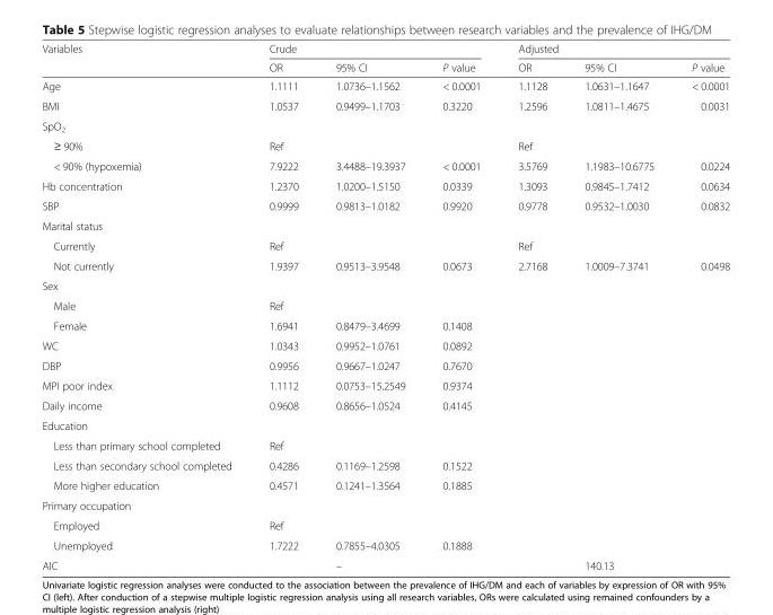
<table><thead><tr><td rowspan="2">Variables</td><td colspan="3">Crude</td><td colspan="3">Adjusted</td></tr><tr><td>OR</td><td>95% CI</td><td>P value</td><td>OR</td><td>95% CI</td><td>P value</td></tr></thead><tbody><tr><td>Age</td><td>1.1111</td><td>1.0736–1.1562</td><td>&lt; 0.0001</td><td>1.1128</td><td>1.0631–1.1647</td><td>&lt; 0.0001</td></tr><tr><td>BMI</td><td>1.0537</td><td>0.9499–1.1703</td><td>0.3220</td><td>1.2596</td><td>1.0811–1.4675</td><td>0.0031</td></tr><tr><td colspan="7">SpO<sub>2</sub></td></tr><tr><td>≥ 90%</td><td>Ref</td><td></td><td></td><td>Ref</td><td></td><td></td></tr><tr><td>&lt; 90% (hypoxemia)</td><td>7.9222</td><td>3.4488–19.3937</td><td>&lt; 0.0001</td><td>3.5769</td><td>1.1983–10.6775</td><td>0.0224</td></tr><tr><td>Hb concentration</td><td>1.2370</td><td>1.0200–1.5150</td><td>0.0339</td><td>1.3093</td><td>0.9845–1.7412</td><td>0.0634</td></tr><tr><td>SBP</td><td>0.9999</td><td>0.9813–1.0182</td><td>0.9920</td><td>0.9778</td><td>0.9532–1.0030</td><td>0.0832</td></tr><tr><td colspan="7">Marital status</td></tr><tr><td>Currently</td><td>Ref</td><td></td><td></td><td>Ref</td><td></td><td></td></tr><tr><td>Not currently</td><td>1.9397</td><td>0.9513–3.9548</td><td>0.0673</td><td>2.7168</td><td>1.0009–7.3741</td><td>0.0498</td></tr><tr><td colspan="7">Sex</td></tr><tr><td>Male</td><td>Ref</td><td></td><td></td><td></td><td></td><td></td></tr><tr><td>Female</td><td>1.6941</td><td>0.8479–3.4699</td><td>0.1408</td><td></td><td></td><td></td></tr><tr><td>WC</td><td>1.0343</td><td>0.9952–1.0761</td><td>0.0892</td><td></td><td></td><td></td></tr><tr><td>DBP</td><td>0.9956</td><td>0.9667–1.0247</td><td>0.7670</td><td></td><td></td><td></td></tr><tr><td>MPI poor index</td><td>1.1112</td><td>0.0753–15.2549</td><td>0.9374</td><td></td><td></td><td></td></tr><tr><td>Daily income</td><td>0.9608</td><td>0.8656–1.0524</td><td>0.4145</td><td></td><td></td><td></td></tr><tr><td colspan="7">Education</td></tr><tr><td>Less than primary school completed</td><td>Ref</td><td></td><td></td><td></td><td></td><td></td></tr><tr><td>Less than secondary school completed</td><td>0.4286</td><td>0.1169–1.2598</td><td>0.1522</td><td></td><td></td><td></td></tr><tr><td>More higher education</td><td>0.4571</td><td>0.1241–1.3564</td><td>0.1885</td><td></td><td></td><td></td></tr><tr><td colspan="7">Primary occupation</td></tr><tr><td>Employed</td><td>Ref</td><td></td><td></td><td></td><td></td><td></td></tr><tr><td>Unemployed</td><td>1.7222</td><td>0.7855–4.0305</td><td>0.1888</td><td></td><td></td><td></td></tr><tr><td>AIC</td><td></td><td>–</td><td></td><td></td><td>140.13</td><td></td></tr></tbody></table>